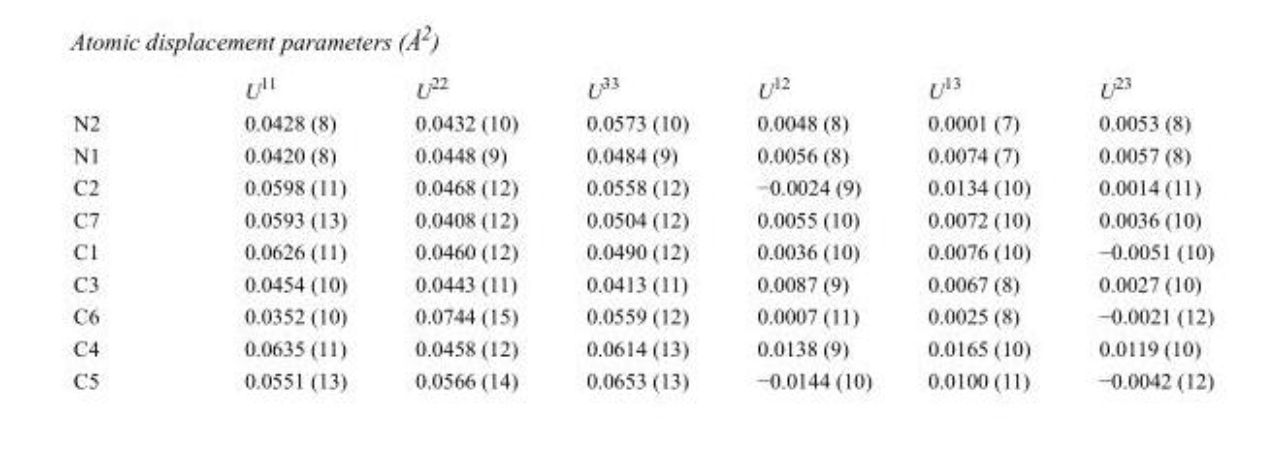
<table><thead><tr><td></td><td>U<sup>11</sup></td><td>U<sup>22</sup></td><td>U<sup>33</sup></td><td>U<sup>12</sup></td><td>U<sup>13</sup></td><td>U<sup>23</sup></td></tr></thead><tbody><tr><td>N2</td><td>0.0428 (8)</td><td>0.0432 (10)</td><td>0.0573 (10)</td><td>0.0048 (8)</td><td>0.0001 (7)</td><td>0.0053 (8)</td></tr><tr><td>N1</td><td>0.0420 (8)</td><td>0.0448 (9)</td><td>0.0484 (9)</td><td>0.0056 (8)</td><td>0.0074 (7)</td><td>0.0057 (8)</td></tr><tr><td>C2</td><td>0.0598 (11)</td><td>0.0468 (12)</td><td>0.0558 (12)</td><td>−0.0024 (9)</td><td>0.0134 (10)</td><td>0.0014 (11)</td></tr><tr><td>C7</td><td>0.0593 (13)</td><td>0.0408 (12)</td><td>0.0504 (12)</td><td>0.0055 (10)</td><td>0.0072 (10)</td><td>0.0036 (10)</td></tr><tr><td>C1</td><td>0.0626 (11)</td><td>0.0460 (12)</td><td>0.0490 (12)</td><td>0.0036 (10)</td><td>0.0076 (10)</td><td>−0.0051 (10)</td></tr><tr><td>C3</td><td>0.0454 (10)</td><td>0.0443 (11)</td><td>0.0413 (11)</td><td>0.0087 (9)</td><td>0.0067 (8)</td><td>0.0027 (10)</td></tr><tr><td>C6</td><td>0.0352 (10)</td><td>0.0744 (15)</td><td>0.0559 (12)</td><td>0.0007 (11)</td><td>0.0025 (8)</td><td>−0.0021 (12)</td></tr><tr><td>C4</td><td>0.0635 (11)</td><td>0.0458 (12)</td><td>0.0614 (13)</td><td>0.0138 (9)</td><td>0.0165 (10)</td><td>0.0119 (10)</td></tr><tr><td>C5</td><td>0.0551 (13)</td><td>0.0566 (14)</td><td>0.0653 (13)</td><td>−0.0144 (10)</td><td>0.0100 (11)</td><td>−0.0042 (12)</td></tr></tbody></table>